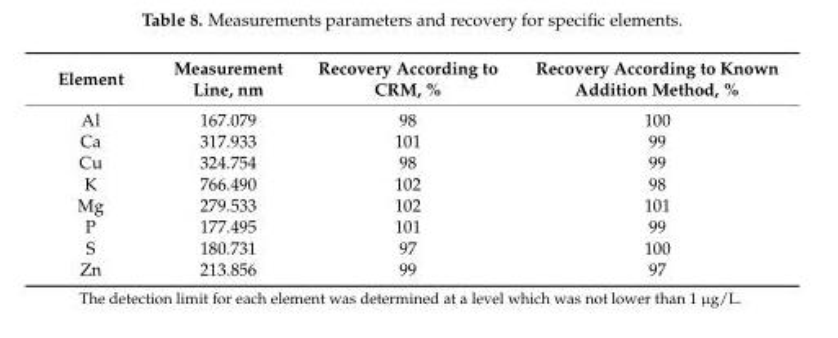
<table><thead><tr><td>Element</td><td>Measurement Line, nm</td><td>Recovery According to CRM, %</td><td>Recovery According to Known Addition Method, %</td></tr></thead><tbody><tr><td>Al</td><td>167.079</td><td>98</td><td>100</td></tr><tr><td>Ca</td><td>317.933</td><td>101</td><td>99</td></tr><tr><td>Cu</td><td>324.754</td><td>98</td><td>99</td></tr><tr><td>K</td><td>766.490</td><td>102</td><td>98</td></tr><tr><td>Mg</td><td>279.533</td><td>102</td><td>101</td></tr><tr><td>P</td><td>177.495</td><td>101</td><td>99</td></tr><tr><td>S</td><td>180.731</td><td>97</td><td>100</td></tr><tr><td>Zn</td><td>213.856</td><td>99</td><td>97</td></tr></tbody></table>